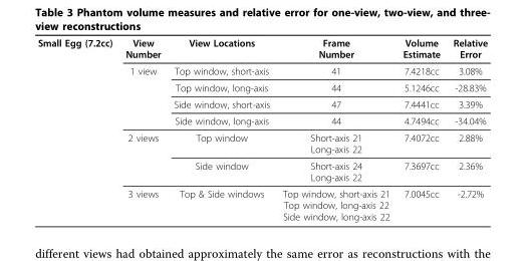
<table><tbody><tr><td rowspan="8">Small Egg (7.2cc)</td><td>View Number</td><td>View Locations</td><td>Frame Number</td><td>Volume Estimate</td><td>Relative Error</td></tr><tr><td>1 view</td><td>Top window, short-axis</td><td>41</td><td>7.4218cc</td><td>3.08%</td></tr><tr><td></td><td>Top window, long-axis</td><td>44</td><td>5.1246cc</td><td>-28.83%</td></tr><tr><td></td><td>Side window, short-axis</td><td>47</td><td>7.4441cc</td><td>3.39%</td></tr><tr><td></td><td>Side window, long-axis</td><td>44</td><td>4.7494cc</td><td>-34.04%</td></tr><tr><td>2 views</td><td>Top window</td><td>Short-axis 21 Long-axis 22</td><td>7.4072cc</td><td>2.88%</td></tr><tr><td></td><td>Side window</td><td>Short-axis 24 Long-axis 22</td><td>7.3697cc</td><td>2.36%</td></tr><tr><td>3 views</td><td>Top &amp; Side windows</td><td>Top window, short-axis 21 Top window, long-axis 22 Side window, long-axis 22</td><td>7.0045cc</td><td>-2.72%</td></tr></tbody></table>